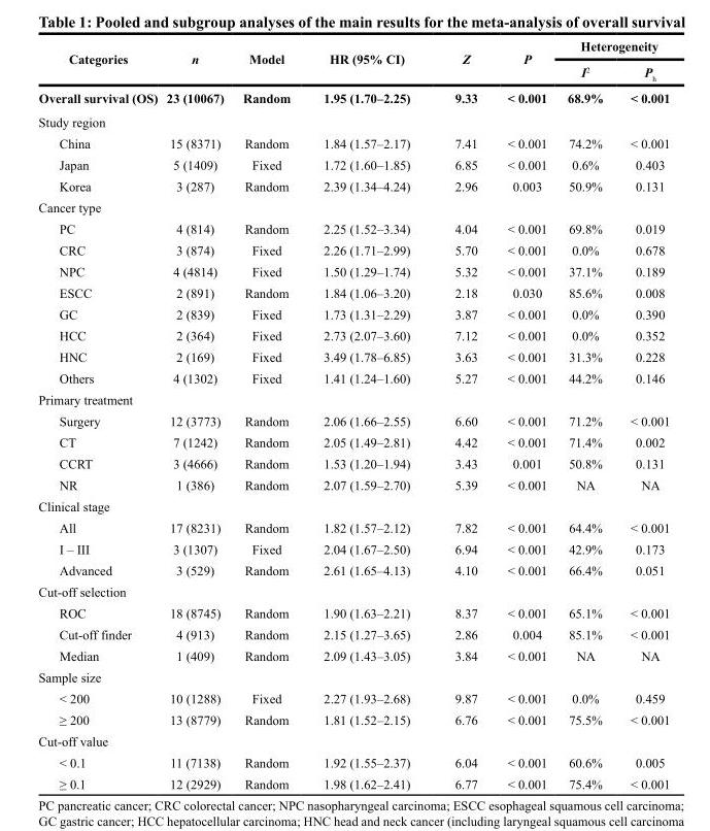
<table><thead><tr><td rowspan="2">Categories</td><td rowspan="2">n</td><td rowspan="2">Model</td><td rowspan="2">HR (95% CI)</td><td rowspan="2">Z</td><td rowspan="2">P</td><td colspan="2">Heterogeneity</td></tr><tr><td>I<sup>2</sup></td><td>P<sub>h</sub></td></tr></thead><tbody><tr><td>Overall survival (OS)</td><td>23 (10067)</td><td>Random</td><td>1.95 (1.70–2.25)</td><td>9.33</td><td>&lt; 0.001</td><td>68.9%</td><td>&lt; 0.001</td></tr><tr><td colspan="8">Study region</td></tr><tr><td>China</td><td>15 (8371)</td><td>Random</td><td>1.84 (1.57–2.17)</td><td>7.41</td><td>&lt; 0.001</td><td>74.2%</td><td>&lt; 0.001</td></tr><tr><td>Japan</td><td>5 (1409)</td><td>Fixed</td><td>1.72 (1.60–1.85)</td><td>6.85</td><td>&lt; 0.001</td><td>0.6%</td><td>0.403</td></tr><tr><td>Korea</td><td>3 (287)</td><td>Random</td><td>2.39 (1.34–4.24)</td><td>2.96</td><td>0.003</td><td>50.9%</td><td>0.131</td></tr><tr><td colspan="8">Cancer type</td></tr><tr><td>PC</td><td>4 (814)</td><td>Random</td><td>2.25 (1.52–3.34)</td><td>4.04</td><td>&lt; 0.001</td><td>69.8%</td><td>0.019</td></tr><tr><td>CRC</td><td>3 (874)</td><td>Fixed</td><td>2.26 (1.71–2.99)</td><td>5.70</td><td>&lt; 0.001</td><td>0.0%</td><td>0.678</td></tr><tr><td>NPC</td><td>4 (4814)</td><td>Fixed</td><td>1.50 (1.29–1.74)</td><td>5.32</td><td>&lt; 0.001</td><td>37.1%</td><td>0.189</td></tr><tr><td>ESCC</td><td>2 (891)</td><td>Random</td><td>1.84 (1.06–3.20)</td><td>2.18</td><td>0.030</td><td>85.6%</td><td>0.008</td></tr><tr><td>GC</td><td>2 (839)</td><td>Fixed</td><td>1.73 (1.31–2.29)</td><td>3.87</td><td>&lt; 0.001</td><td>0.0%</td><td>0.390</td></tr><tr><td>HCC</td><td>2 (364)</td><td>Fixed</td><td>2.73 (2.07–3.60)</td><td>7.12</td><td>&lt; 0.001</td><td>0.0%</td><td>0.352</td></tr><tr><td>HNC</td><td>2 (169)</td><td>Fixed</td><td>3.49 (1.78–6.85)</td><td>3.63</td><td>&lt; 0.001</td><td>31.3%</td><td>0.228</td></tr><tr><td>Others</td><td>4 (1302)</td><td>Fixed</td><td>1.41 (1.24–1.60)</td><td>5.27</td><td>&lt; 0.001</td><td>44.2%</td><td>0.146</td></tr><tr><td colspan="8">Primary treatment</td></tr><tr><td>Surgery</td><td>12 (3773)</td><td>Random</td><td>2.06 (1.66–2.55)</td><td>6.60</td><td>&lt; 0.001</td><td>71.2%</td><td>&lt; 0.001</td></tr><tr><td>CT</td><td>7 (1242)</td><td>Random</td><td>2.05 (1.49–2.81)</td><td>4.42</td><td>&lt; 0.001</td><td>71.4%</td><td>0.002</td></tr><tr><td>CCRT</td><td>3 (4666)</td><td>Random</td><td>1.53 (1.20–1.94)</td><td>3.43</td><td>0.001</td><td>50.8%</td><td>0.131</td></tr><tr><td>NR</td><td>1 (386)</td><td>Random</td><td>2.07 (1.59–2.70)</td><td>5.39</td><td>&lt; 0.001</td><td>NA</td><td>NA</td></tr><tr><td colspan="8">Clinical stage</td></tr><tr><td>All</td><td>17 (8231)</td><td>Random</td><td>1.82 (1.57–2.12)</td><td>7.82</td><td>&lt; 0.001</td><td>64.4%</td><td>&lt; 0.001</td></tr><tr><td>I – III</td><td>3 (1307)</td><td>Fixed</td><td>2.04 (1.67–2.50)</td><td>6.94</td><td>&lt; 0.001</td><td>42.9%</td><td>0.173</td></tr><tr><td>Advanced</td><td>3 (529)</td><td>Random</td><td>2.61 (1.65–4.13)</td><td>4.10</td><td>&lt; 0.001</td><td>66.4%</td><td>0.051</td></tr><tr><td colspan="8">Cut-off selection</td></tr><tr><td>ROC</td><td>18 (8745)</td><td>Random</td><td>1.90 (1.63–2.21)</td><td>8.37</td><td>&lt; 0.001</td><td>65.1%</td><td>&lt; 0.001</td></tr><tr><td>Cut-off finder</td><td>4 (913)</td><td>Random</td><td>2.15 (1.27–3.65)</td><td>2.86</td><td>0.004</td><td>85.1%</td><td>&lt; 0.001</td></tr><tr><td>Median</td><td>1 (409)</td><td>Random</td><td>2.09 (1.43–3.05)</td><td>3.84</td><td>&lt; 0.001</td><td>NA</td><td>NA</td></tr><tr><td colspan="8">Sample size</td></tr><tr><td>&lt; 200</td><td>10 (1288)</td><td>Fixed</td><td>2.27 (1.93–2.68)</td><td>9.87</td><td>&lt; 0.001</td><td>0.0%</td><td>0.459</td></tr><tr><td>≥ 200</td><td>13 (8779)</td><td>Random</td><td>1.81 (1.52–2.15)</td><td>6.76</td><td>&lt; 0.001</td><td>75.5%</td><td>&lt; 0.001</td></tr><tr><td colspan="8">Cut-off value</td></tr><tr><td>&lt; 0.1</td><td>11 (7138)</td><td>Random</td><td>1.92 (1.55–2.37)</td><td>6.04</td><td>&lt; 0.001</td><td>60.6%</td><td>0.005</td></tr><tr><td>≥ 0.1</td><td>12 (2929)</td><td>Random</td><td>1.98 (1.62–2.41)</td><td>6.77</td><td>&lt; 0.001</td><td>75.4%</td><td>&lt; 0.001</td></tr></tbody></table>